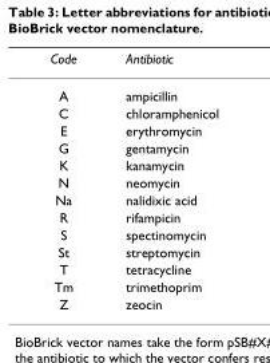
<table><thead><tr><td>Code</td><td>Antibiotic</td></tr></thead><tbody><tr><td>A</td><td>ampicillin</td></tr><tr><td>C</td><td>chloramphenicol</td></tr><tr><td>E</td><td>erythromycin</td></tr><tr><td>G</td><td>gentamycin</td></tr><tr><td>K</td><td>kanamycin</td></tr><tr><td>N</td><td>neomycin</td></tr><tr><td>Na</td><td>nalidixic acid</td></tr><tr><td>R</td><td>rifampicin</td></tr><tr><td>S</td><td>spectinomycin</td></tr><tr><td>St</td><td>streptomycin</td></tr><tr><td>T</td><td>tetracycline</td></tr><tr><td>Tm</td><td>trimethoprim</td></tr><tr><td>Z</td><td>zeocin</td></tr></tbody></table>